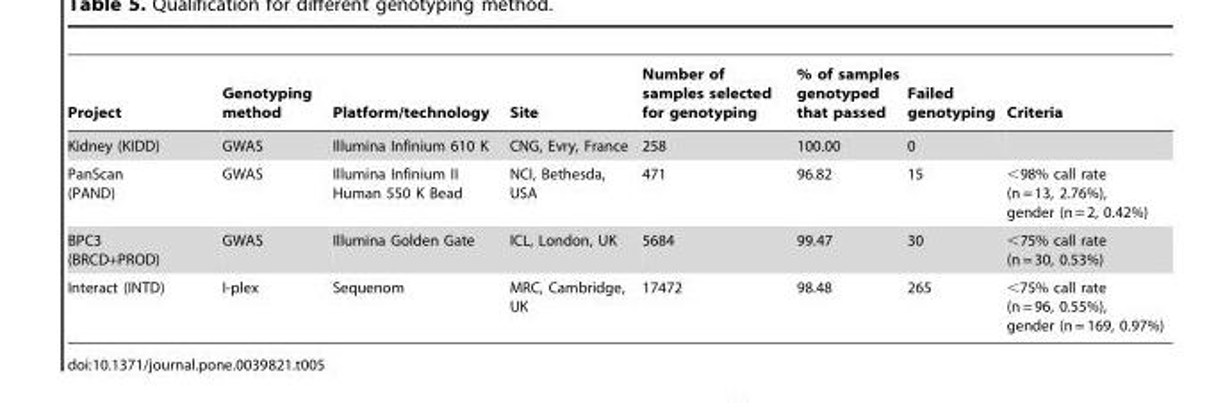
<table><thead><tr><td>Project</td><td>Genotyping method</td><td>Platform/technology</td><td>Site</td><td>Number of samples selected for genotyping</td><td>% of samples genotyped that passed</td><td>Failed genotyping</td><td>Criteria</td></tr></thead><tbody><tr><td>Kidney (KIDD)</td><td>GWAS</td><td>Illumina Infinium 610 K</td><td>CNG, Evry, France</td><td>258</td><td>100.00</td><td>0</td><td></td></tr><tr><td>PanScan (PAND)</td><td>GWAS</td><td>Illumina Infinium II Human 550 K Bead</td><td>NCI, Bethesda, USA</td><td>471</td><td>96.82</td><td>15</td><td>&lt;98% call rate (n = 13, 2.76%), gender (n = 2, 0.42%)</td></tr><tr><td>BPC3 (BRCD+PROD)</td><td>GWAS</td><td>Illumina Golden Gate</td><td>ICL, London, UK</td><td>5684</td><td>99.47</td><td>30</td><td>&lt;75% call rate (n = 30, 0.53%)</td></tr><tr><td>Interact (INTD)</td><td>I-plex</td><td>Sequenom</td><td>MRC, Cambridge, UK</td><td>17472</td><td>98.48</td><td>265</td><td>&lt;75% call rate (n = 96, 0.55%), gender (n = 169, 0.97%)</td></tr></tbody></table>